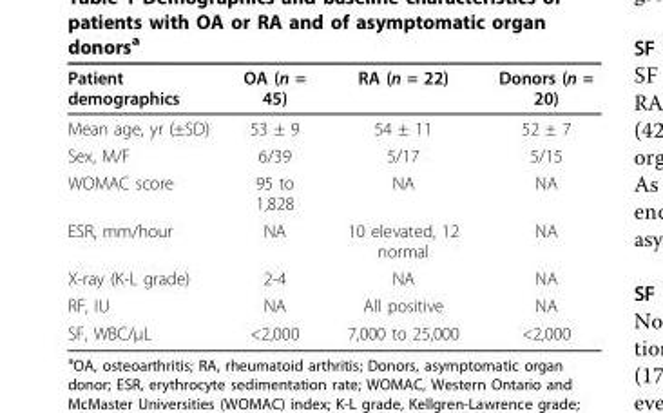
<table><thead><tr><td>Patient demographics</td><td>OA (n = 45)</td><td>RA (n = 22)</td><td>Donors (n = 20)</td></tr></thead><tbody><tr><td>Mean age, yr (±SD)</td><td>53 ± 9</td><td>54 ± 11</td><td>52 ± 7</td></tr><tr><td>Sex, M/F</td><td>6/39</td><td>5/17</td><td>5/15</td></tr><tr><td>WOMAC score</td><td>95 to 1,828</td><td>NA</td><td>NA</td></tr><tr><td>ESR, mm/hour</td><td>NA</td><td>10 elevated, 12 normal</td><td>NA</td></tr><tr><td>X-ray (K-L grade)</td><td>2-4</td><td>NA</td><td>NA</td></tr><tr><td>RF, IU</td><td>NA</td><td>All positive</td><td>NA</td></tr><tr><td>SF, WBC/μL</td><td>&lt;2,000</td><td>7,000 to 25,000</td><td>&lt;2,000</td></tr></tbody></table>